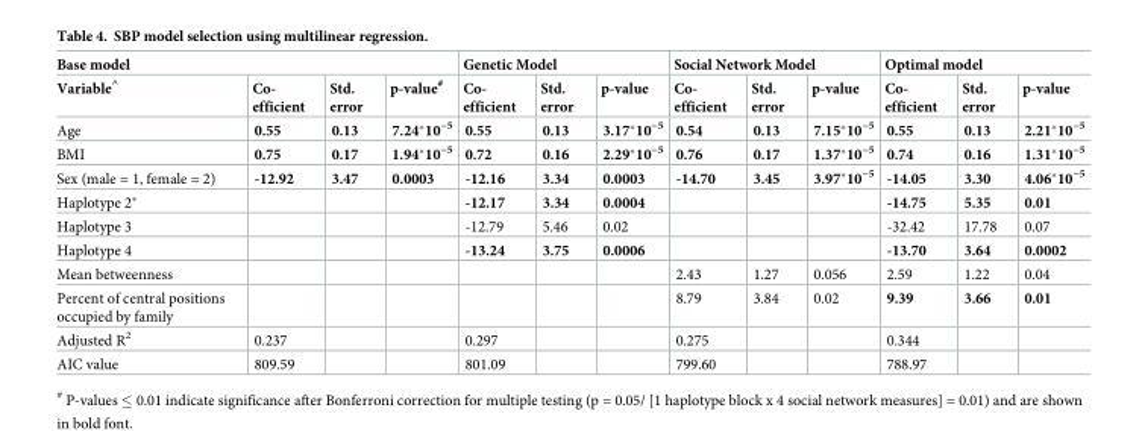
<table><thead><tr><td colspan="4">Base model</td><td colspan="3">Genetic Model</td><td colspan="3">Social Network Model</td><td colspan="3">Optimal model</td></tr><tr><td>Variable<sup>^</sup></td><td>Co- efficient</td><td>Std. error</td><td>p-value<sup>#</sup></td><td>Co- efficient</td><td>Std. error</td><td>p-value</td><td>Co- efficient</td><td>Std. error</td><td>p-value</td><td>Co- efficient</td><td>Std. error</td><td>p-value</td></tr></thead><tbody><tr><td>Age</td><td>0.55</td><td>0.13</td><td>7.24*10<sup>−5</sup></td><td>0.55</td><td>0.13</td><td>3.17*10<sup>−5</sup></td><td>0.54</td><td>0.13</td><td>7.15*10<sup>−5</sup></td><td>0.55</td><td>0.13</td><td>2.21*10<sup>−5</sup></td></tr><tr><td>BMI</td><td>0.75</td><td>0.17</td><td>1.94*10<sup>−5</sup></td><td>0.72</td><td>0.16</td><td>2.29*10<sup>−5</sup></td><td>0.76</td><td>0.17</td><td>1.37*10<sup>−5</sup></td><td>0.74</td><td>0.16</td><td>1.31*10<sup>−5</sup></td></tr><tr><td>Sex (male = 1, female = 2)</td><td>-12.92</td><td>3.47</td><td>0.0003</td><td>-12.16</td><td>3.34</td><td>0.0003</td><td>-14.70</td><td>3.45</td><td>3.97*10<sup>−5</sup></td><td>-14.05</td><td>3.30</td><td>4.06*10<sup>−5</sup></td></tr><tr><td>Haplotype 2*</td><td></td><td></td><td></td><td>-12.17</td><td>3.34</td><td>0.0004</td><td></td><td></td><td></td><td>-14.75</td><td>5.35</td><td>0.01</td></tr><tr><td>Haplotype 3</td><td></td><td></td><td></td><td>-12.79</td><td>5.46</td><td>0.02</td><td></td><td></td><td></td><td>-32.42</td><td>17.78</td><td>0.07</td></tr><tr><td>Haplotype 4</td><td></td><td></td><td></td><td>-13.24</td><td>3.75</td><td>0.0006</td><td></td><td></td><td></td><td>-13.70</td><td>3.64</td><td>0.0002</td></tr><tr><td>Mean betweenness</td><td></td><td></td><td></td><td></td><td></td><td></td><td>2.43</td><td>1.27</td><td>0.056</td><td>2.59</td><td>1.22</td><td>0.04</td></tr><tr><td>Percent of central positions occupied by family</td><td></td><td></td><td></td><td></td><td></td><td></td><td>8.79</td><td>3.84</td><td>0.02</td><td>9.39</td><td>3.66</td><td>0.01</td></tr><tr><td>Adjusted R<sup>2</sup></td><td>0.237</td><td></td><td></td><td>0.297</td><td></td><td></td><td>0.275</td><td></td><td></td><td>0.344</td><td></td><td></td></tr><tr><td>AIC value</td><td>809.59</td><td></td><td></td><td>801.09</td><td></td><td></td><td>799.60</td><td></td><td></td><td>788.97</td><td></td><td></td></tr></tbody></table>